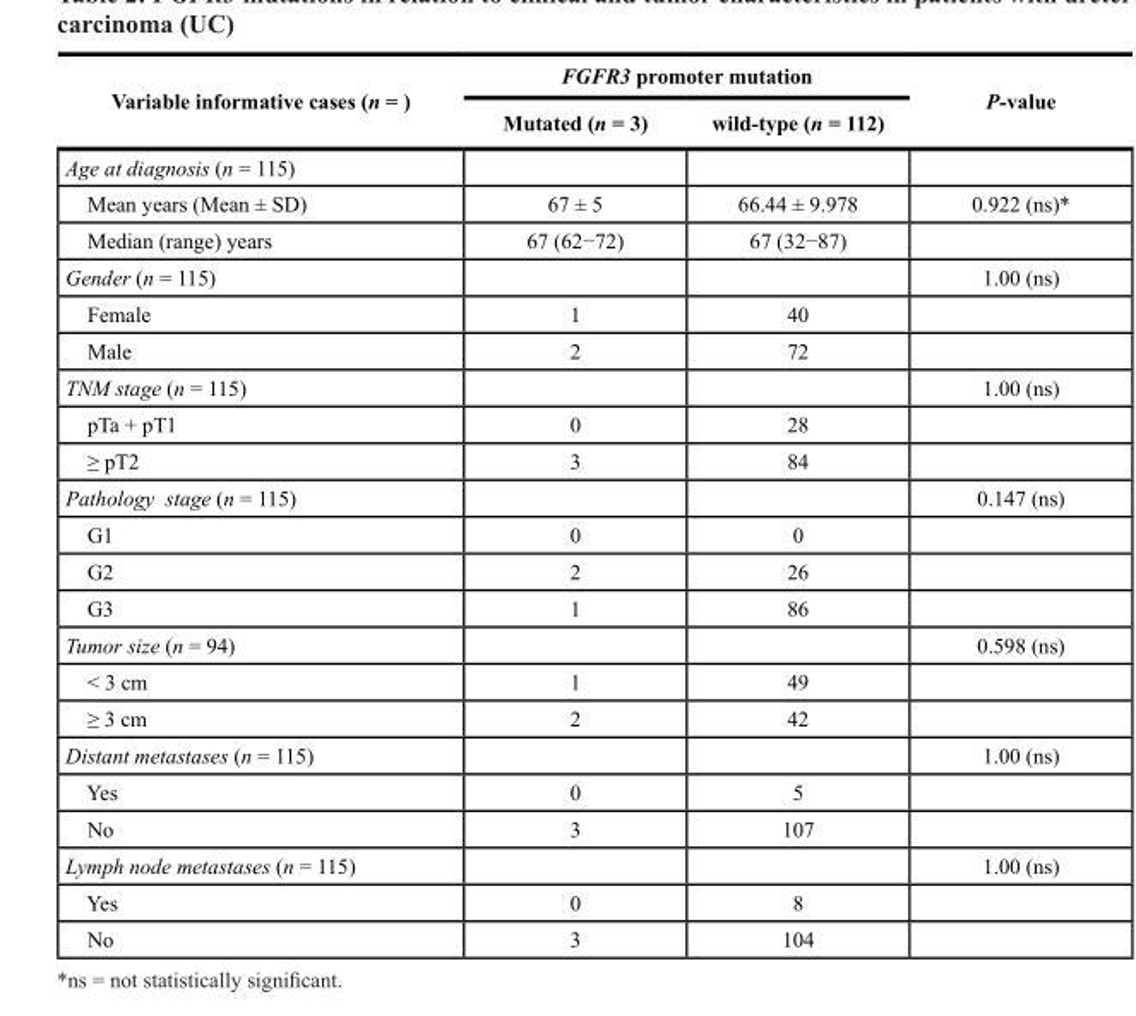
<table><thead><tr><td rowspan="2">Variable informative cases (n = )</td><td colspan="2">FGFR3 promoter mutation</td><td rowspan="2">P-value</td></tr><tr><td>Mutated (n = 3)</td><td>wild-type (n = 112)</td></tr></thead><tbody><tr><td colspan="4">Age at diagnosis (n = 115)</td></tr><tr><td>Mean years (Mean ± SD)</td><td>67 ± 5</td><td>66.44 ± 9.978</td><td>0.922 (ns)*</td></tr><tr><td>Median (range) years</td><td>67 (62−72)</td><td>67 (32−87)</td><td></td></tr><tr><td>Gender (n = 115)</td><td></td><td></td><td>1.00 (ns)</td></tr><tr><td>Female</td><td>1</td><td>40</td><td></td></tr><tr><td>Male</td><td>2</td><td>72</td><td></td></tr><tr><td>TNM stage (n = 115)</td><td></td><td></td><td>1.00 (ns)</td></tr><tr><td>pTa + pT1</td><td>0</td><td>28</td><td></td></tr><tr><td>≥ pT2</td><td>3</td><td>84</td><td></td></tr><tr><td>Pathology stage (n = 115)</td><td></td><td></td><td>0.147 (ns)</td></tr><tr><td>G1</td><td>0</td><td>0</td><td></td></tr><tr><td>G2</td><td>2</td><td>26</td><td></td></tr><tr><td>G3</td><td>1</td><td>86</td><td></td></tr><tr><td>Tumor size (n = 94)</td><td></td><td></td><td>0.598 (ns)</td></tr><tr><td>&lt; 3 cm</td><td>1</td><td>49</td><td></td></tr><tr><td>≥ 3 cm</td><td>2</td><td>42</td><td></td></tr><tr><td>Distant metastases (n = 115)</td><td></td><td></td><td>1.00 (ns)</td></tr><tr><td>Yes</td><td>0</td><td>5</td><td></td></tr><tr><td>No</td><td>3</td><td>107</td><td></td></tr><tr><td>Lymph node metastases (n = 115)</td><td></td><td></td><td>1.00 (ns)</td></tr><tr><td>Yes</td><td>0</td><td>8</td><td></td></tr><tr><td>No</td><td>3</td><td>104</td><td></td></tr></tbody></table>